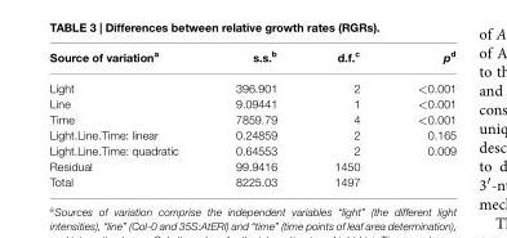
<table><thead><tr><td>Source of variation<sup>a</sup></td><td>s.s.<sup>b</sup></td><td>d.f.<sup>c</sup></td><td>p<sup>d</sup></td></tr></thead><tbody><tr><td>Light</td><td>396.901</td><td>2</td><td>&lt;0.001</td></tr><tr><td>Line</td><td>9.09441</td><td>1</td><td>&lt;0.001</td></tr><tr><td>Time</td><td>7859.79</td><td>4</td><td>&lt;0.001</td></tr><tr><td>Light.Line.Time: linear</td><td>0.24859</td><td>2</td><td>0.165</td></tr><tr><td>Light.Line.Time: quadratic</td><td>0.64553</td><td>2</td><td>0.009</td></tr><tr><td>Residual</td><td>99.9416</td><td>1450</td><td></td></tr><tr><td>Total</td><td>8225.03</td><td>1497</td><td></td></tr></tbody></table>